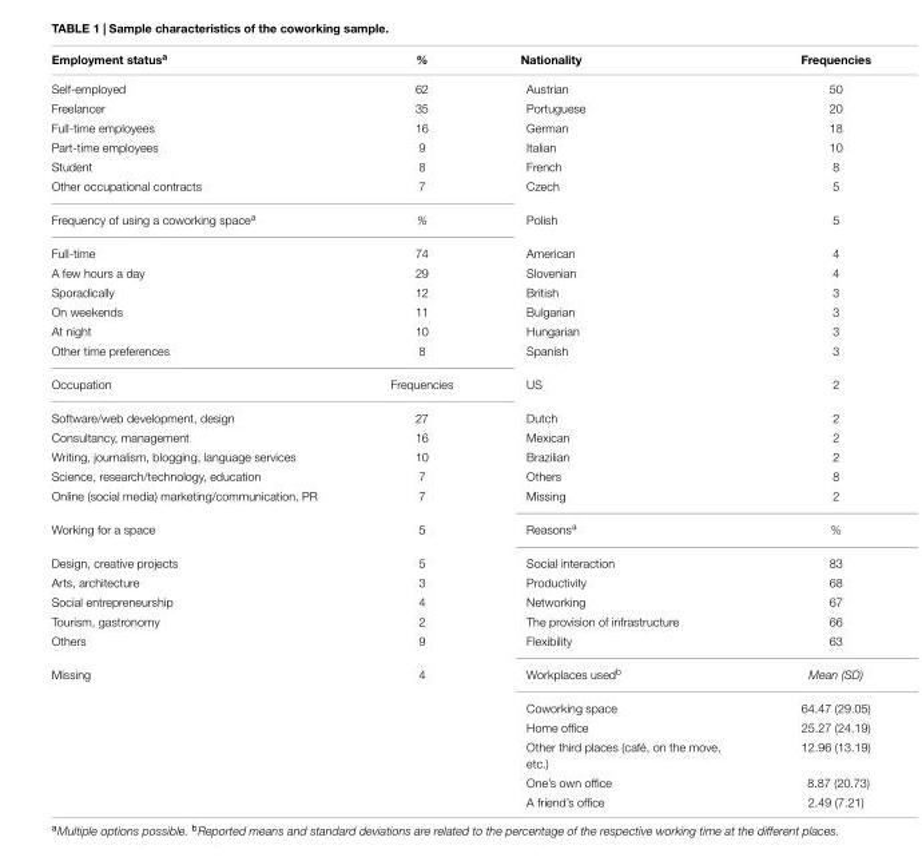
<table><thead><tr><td>Employment status<sup>a</sup></td><td>%</td><td>Nationality</td><td>Frequencies</td></tr></thead><tbody><tr><td>Self-employed</td><td>62</td><td>Austrian</td><td>50</td></tr><tr><td>Freelancer</td><td>35</td><td>Portuguese</td><td>20</td></tr><tr><td>Full-time employees</td><td>16</td><td>German</td><td>18</td></tr><tr><td>Part-time employees</td><td>9</td><td>Italian</td><td>10</td></tr><tr><td>Student</td><td>8</td><td>French</td><td>8</td></tr><tr><td>Other occupational contracts</td><td>7</td><td>Czech</td><td>5</td></tr><tr><td>Frequency of using a coworking space<sup>a</sup></td><td>%</td><td>Polish</td><td>5</td></tr><tr><td>Full-time</td><td>74</td><td>American</td><td>4</td></tr><tr><td>A few hours a day</td><td>29</td><td>Slovenian</td><td>4</td></tr><tr><td>Sporadically</td><td>12</td><td>British</td><td>3</td></tr><tr><td>On weekends</td><td>11</td><td>Bulgarian</td><td>3</td></tr><tr><td>At night</td><td>10</td><td>Hungarian</td><td>3</td></tr><tr><td>Other time preferences</td><td>8</td><td>Spanish</td><td>3</td></tr><tr><td>Occupation</td><td>Frequencies</td><td>US</td><td>2</td></tr><tr><td>Software/web development, design</td><td>27</td><td>Dutch</td><td>2</td></tr><tr><td>Consultancy, management</td><td>16</td><td>Mexican</td><td>2</td></tr><tr><td>Writing, journalism, blogging, language services</td><td>10</td><td>Brazilian</td><td>2</td></tr><tr><td>Science, research/technology, education</td><td>7</td><td>Others</td><td>8</td></tr><tr><td>Online (social media) marketing/communication, PR</td><td>7</td><td>Missing</td><td>2</td></tr><tr><td>Working for a space</td><td>5</td><td>Reasons<sup>a</sup></td><td>%</td></tr><tr><td>Design, creative projects</td><td>5</td><td>Social interaction</td><td>83</td></tr><tr><td>Arts, architecture</td><td>3</td><td>Productivity</td><td>68</td></tr><tr><td>Social entrepreneurship</td><td>4</td><td>Networking</td><td>67</td></tr><tr><td>Tourism, gastronomy</td><td>2</td><td>The provision of infrastructure</td><td>66</td></tr><tr><td>Others</td><td>9</td><td>Flexibility</td><td>63</td></tr><tr><td rowspan="6">Missing</td><td>4</td><td>Workplaces used<sup>b</sup></td><td>Mean (SD)</td></tr><tr><td></td><td>Coworking space</td><td>64.47 (29.05)</td></tr><tr><td></td><td>Home office</td><td>25.27 (24.19)</td></tr><tr><td></td><td>Other third places (café, on the move, etc.)</td><td>12.96 (13.19)</td></tr><tr><td></td><td>One’s own office</td><td>8.87 (20.73)</td></tr><tr><td></td><td>A friend’s office</td><td>2.49 (7.21)</td></tr></tbody></table>